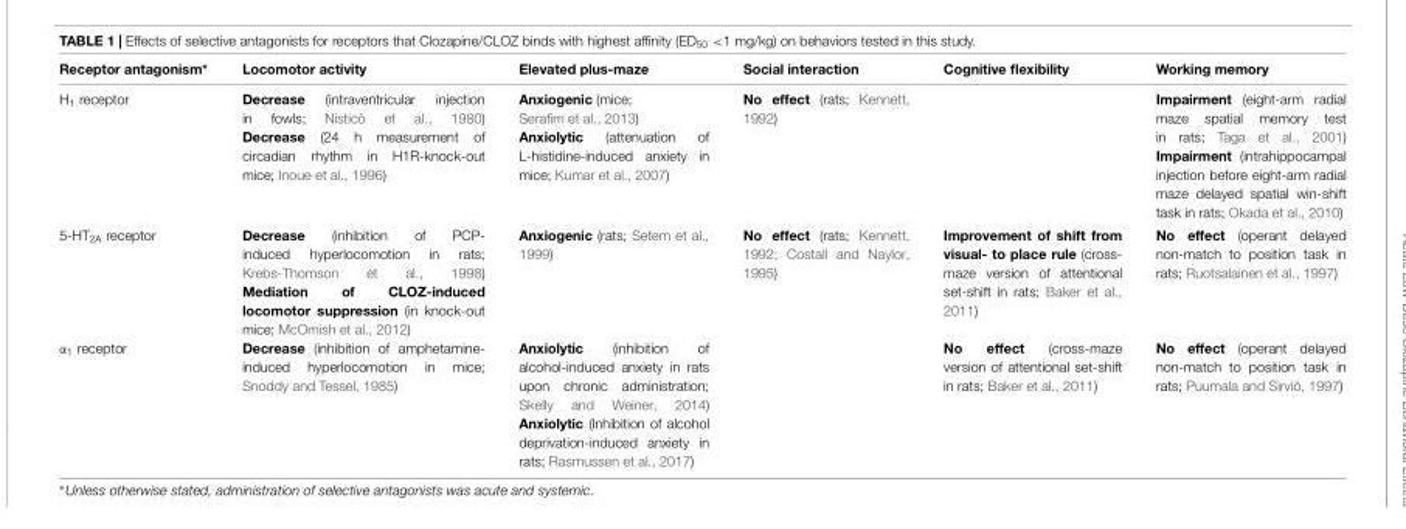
<table><thead><tr><td>Receptor antagonism∗</td><td>Locomotor activity</td><td>Elevated plus-maze</td><td>Social interaction</td><td>Cognitive flexibility</td><td>Working memory</td></tr></thead><tbody><tr><td>H<sub>1</sub> receptor</td><td>Decrease (intraventricular injection in fowls; Nisticò et al., 1980) Decrease (24 h measurement of circadian rhythm in H1R-knock-out mice; Inoue et al., 1996)</td><td>Anxiogenic (mice; Serafim et al., 2013) Anxiolytic (attenuation of L-histidine-induced anxiety in mice; Kumar et al., 2007)</td><td>No effect (rats; Kennett, 1992)</td><td></td><td>Impairment (eight-arm radial maze spatial memory test in rats; Taga et al., 2001) Impairment (intrahippocampal injection before eight-arm radial maze delayed spatial win-shift task in rats; Okada et al., 2010)</td></tr><tr><td>5-HT<sub>2A</sub> receptor</td><td>Decrease (inhibition of PCP- induced hyperlocomotion in rats; Krebs-Thomson et al., 1998) Mediation of CLOZ-induced locomotor suppression (in knock-out mice; McOmish et al., 2012)</td><td>Anxiogenic (rats; Setem et al., 1999)</td><td>No effect (rats; Kennett, 1992; Costall and Naylor, 1995)</td><td>Improvement of shift from visual- to place rule (cross- maze version of attentional set-shift in rats; Baker et al., 2011)</td><td>No effect (operant delayed non-match to position task in rats; Ruotsalainen et al., 1997)</td></tr><tr><td>α<sub>1</sub> receptor</td><td>Decrease (inhibition of amphetamine- induced hyperlocomotion in mice; Snoddy and Tessel, 1985)</td><td>Anxiolytic (inhibition of alcohol-induced anxiety in rats upon chronic administration; Skelly and Weiner, 2014) Anxiolytic (Inhibition of alcohol deprivation-induced anxiety in rats; Rasmussen et al., 2017)</td><td></td><td>No effect (cross-maze version of attentional set-shift in rats; Baker et al., 2011)</td><td>No effect (operant delayed non-match to position task in rats; Puumala and Sirviö, 1997)</td></tr></tbody></table>